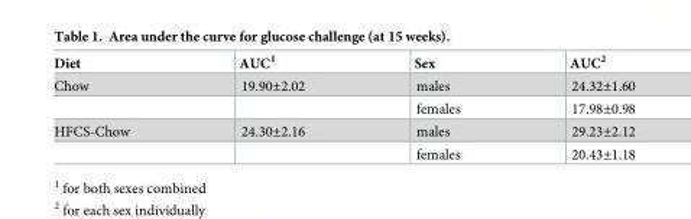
<table><thead><tr><td>Diet</td><td>AUC<sup>1</sup></td><td>Sex</td><td>AUC<sup>2</sup></td></tr></thead><tbody><tr><td rowspan="2">Chow</td><td>19.90±2.02</td><td>males</td><td>24.32±1.60</td></tr><tr><td></td><td>females</td><td>17.98±0.98</td></tr><tr><td rowspan="2">HFCS-Chow</td><td>24.30±2.16</td><td>males</td><td>29.23±2.12</td></tr><tr><td></td><td>females</td><td>20.43±1.18</td></tr></tbody></table>